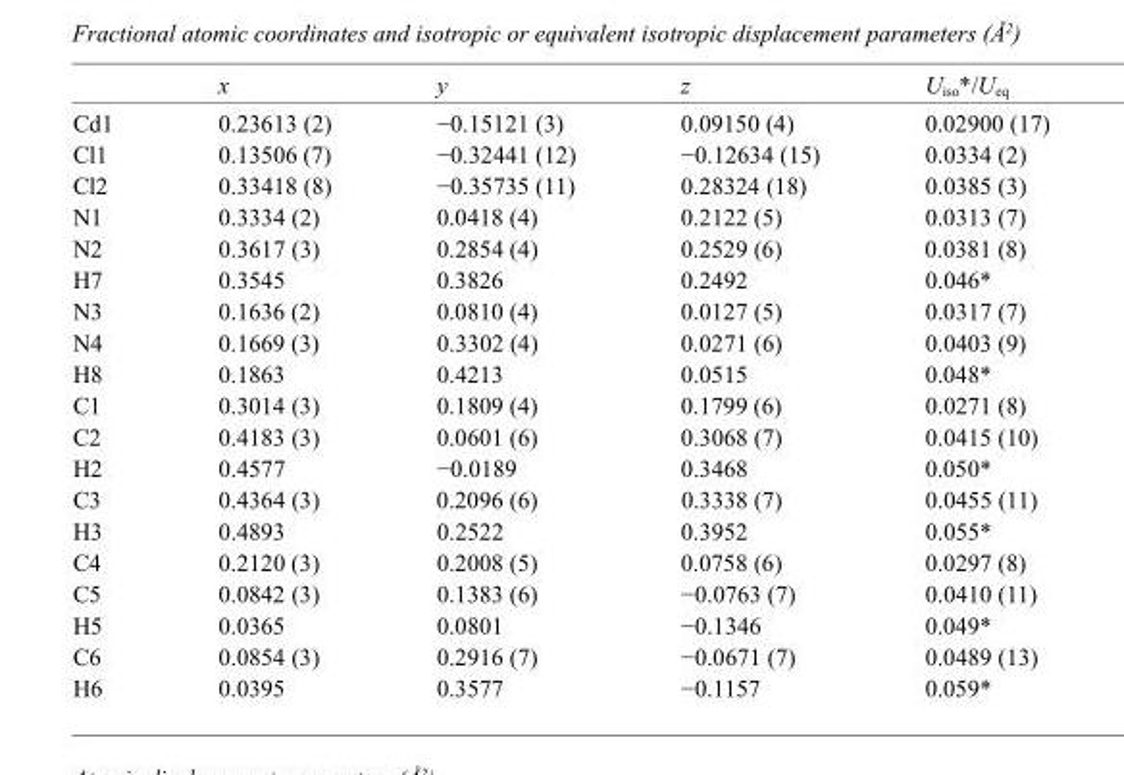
<table><thead><tr><td></td><td>x</td><td>y</td><td>z</td><td>U<sub>iso</sub>*/U<sub>eq</sub></td></tr></thead><tbody><tr><td>Cd1</td><td>0.23613 (2)</td><td>−0.15121 (3)</td><td>0.09150 (4)</td><td>0.02900 (17)</td></tr><tr><td>Cl1</td><td>0.13506 (7)</td><td>−0.32441 (12)</td><td>−0.12634 (15)</td><td>0.0334 (2)</td></tr><tr><td>Cl2</td><td>0.33418 (8)</td><td>−0.35735 (11)</td><td>0.28324 (18)</td><td>0.0385 (3)</td></tr><tr><td>N1</td><td>0.3334 (2)</td><td>0.0418 (4)</td><td>0.2122 (5)</td><td>0.0313 (7)</td></tr><tr><td>N2</td><td>0.3617 (3)</td><td>0.2854 (4)</td><td>0.2529 (6)</td><td>0.0381 (8)</td></tr><tr><td>H7</td><td>0.3545</td><td>0.3826</td><td>0.2492</td><td>0.046*</td></tr><tr><td>N3</td><td>0.1636 (2)</td><td>0.0810 (4)</td><td>0.0127 (5)</td><td>0.0317 (7)</td></tr><tr><td>N4</td><td>0.1669 (3)</td><td>0.3302 (4)</td><td>0.0271 (6)</td><td>0.0403 (9)</td></tr><tr><td>H8</td><td>0.1863</td><td>0.4213</td><td>0.0515</td><td>0.048*</td></tr><tr><td>C1</td><td>0.3014 (3)</td><td>0.1809 (4)</td><td>0.1799 (6)</td><td>0.0271 (8)</td></tr><tr><td>C2</td><td>0.4183 (3)</td><td>0.0601 (6)</td><td>0.3068 (7)</td><td>0.0415 (10)</td></tr><tr><td>H2</td><td>0.4577</td><td>−0.0189</td><td>0.3468</td><td>0.050*</td></tr><tr><td>C3</td><td>0.4364 (3)</td><td>0.2096 (6)</td><td>0.3338 (7)</td><td>0.0455 (11)</td></tr><tr><td>H3</td><td>0.4893</td><td>0.2522</td><td>0.3952</td><td>0.055*</td></tr><tr><td>C4</td><td>0.2120 (3)</td><td>0.2008 (5)</td><td>0.0758 (6)</td><td>0.0297 (8)</td></tr><tr><td>C5</td><td>0.0842 (3)</td><td>0.1383 (6)</td><td>−0.0763 (7)</td><td>0.0410 (11)</td></tr><tr><td>H5</td><td>0.0365</td><td>0.0801</td><td>−0.1346</td><td>0.049*</td></tr><tr><td>C6</td><td>0.0854 (3)</td><td>0.2916 (7)</td><td>−0.0671 (7)</td><td>0.0489 (13)</td></tr><tr><td>H6</td><td>0.0395</td><td>0.3577</td><td>−0.1157</td><td>0.059*</td></tr></tbody></table>